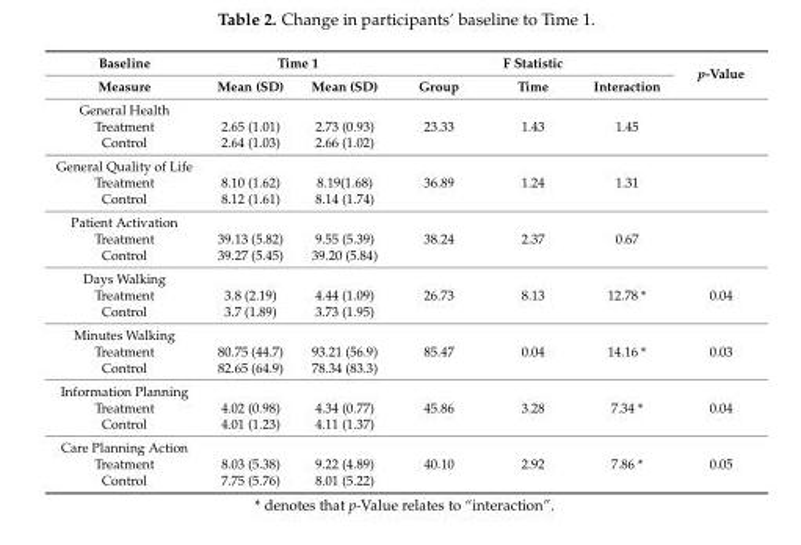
<table><thead><tr><td rowspan="2">Baseline Measure</td><td colspan="2">Time 1</td><td colspan="3">F Statistic</td><td rowspan="2">p-Value</td></tr><tr><td>Mean (SD)</td><td>Mean (SD)</td><td>Group</td><td>Time</td><td>Interaction</td></tr></thead><tbody><tr><td colspan="7">General Health</td></tr><tr><td>Treatment</td><td>2.65 (1.01)</td><td>2.73 (0.93)</td><td>23.33</td><td>1.43</td><td>1.45</td><td></td></tr><tr><td>Control</td><td>2.64 (1.03)</td><td>2.66 (1.02)</td><td></td><td></td><td></td><td></td></tr><tr><td colspan="7">General Quality of Life</td></tr><tr><td>Treatment</td><td>8.10 (1.62)</td><td>8.19(1.68)</td><td>36.89</td><td>1.24</td><td>1.31</td><td></td></tr><tr><td>Control</td><td>8.12 (1.61)</td><td>8.14 (1.74)</td><td></td><td></td><td></td><td></td></tr><tr><td colspan="7">Patient Activation</td></tr><tr><td>Treatment</td><td>39.13 (5.82)</td><td>9.55 (5.39)</td><td>38.24</td><td>2.37</td><td>0.67</td><td></td></tr><tr><td>Control</td><td>39.27 (5.45)</td><td>39.20 (5.84)</td><td></td><td></td><td></td><td></td></tr><tr><td colspan="7">Days Walking</td></tr><tr><td>Treatment</td><td>3.8 (2.19)</td><td>4.44 (1.09)</td><td>26.73</td><td>8.13</td><td>12.78 *</td><td>0.04</td></tr><tr><td>Control</td><td>3.7 (1.89)</td><td>3.73 (1.95)</td><td></td><td></td><td></td><td></td></tr><tr><td colspan="7">Minutes Walking</td></tr><tr><td>Treatment</td><td>80.75 (44.7)</td><td>93.21 (56.9)</td><td>85.47</td><td>0.04</td><td>14.16 *</td><td>0.03</td></tr><tr><td>Control</td><td>82.65 (64.9)</td><td>78.34 (83.3)</td><td></td><td></td><td></td><td></td></tr><tr><td colspan="7">Information Planning</td></tr><tr><td>Treatment</td><td>4.02 (0.98)</td><td>4.34 (0.77)</td><td>45.86</td><td>3.28</td><td>7.34 *</td><td>0.04</td></tr><tr><td>Control</td><td>4.01 (1.23)</td><td>4.11 (1.37)</td><td></td><td></td><td></td><td></td></tr><tr><td colspan="7">Care Planning Action</td></tr><tr><td>Treatment</td><td>8.03 (5.38)</td><td>9.22 (4.89)</td><td>40.10</td><td>2.92</td><td>7.86 *</td><td>0.05</td></tr><tr><td>Control</td><td>7.75 (5.76)</td><td>8.01 (5.22)</td><td></td><td></td><td></td><td></td></tr></tbody></table>